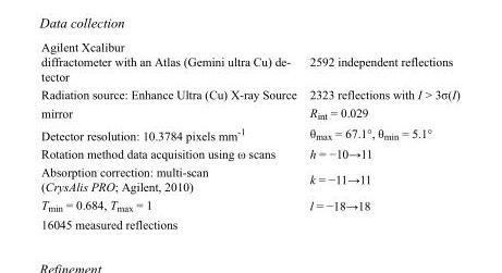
<table><tbody><tr><td>Agilent Xcalibur diffractometer with an Atlas (Gemini ultra Cu) de- tector</td><td>2592 independent reflections</td></tr><tr><td>Radiation source: Enhance Ultra (Cu) X-ray Source</td><td>2323 reflections with I &gt; 3σ(I)</td></tr><tr><td>mirror</td><td>R<sub>int</sub> = 0.029</td></tr><tr><td>Detector resolution: 10.3784 pixels mm<sup>-1</sup></td><td>θ<sub>max</sub> = 67.1°, θ<sub>min</sub> = 5.1°</td></tr><tr><td>Rotation method data acquisition using ω scans</td><td>h = −10→11</td></tr><tr><td>Absorption correction: multi-scan (CrysAlis PRO; Agilent, 2010)</td><td>k = −11→11</td></tr><tr><td>T<sub>min</sub> = 0.684, T<sub>max</sub> = 1</td><td>l = −18→18</td></tr><tr><td>16045 measured reflections</td><td></td></tr></tbody></table>